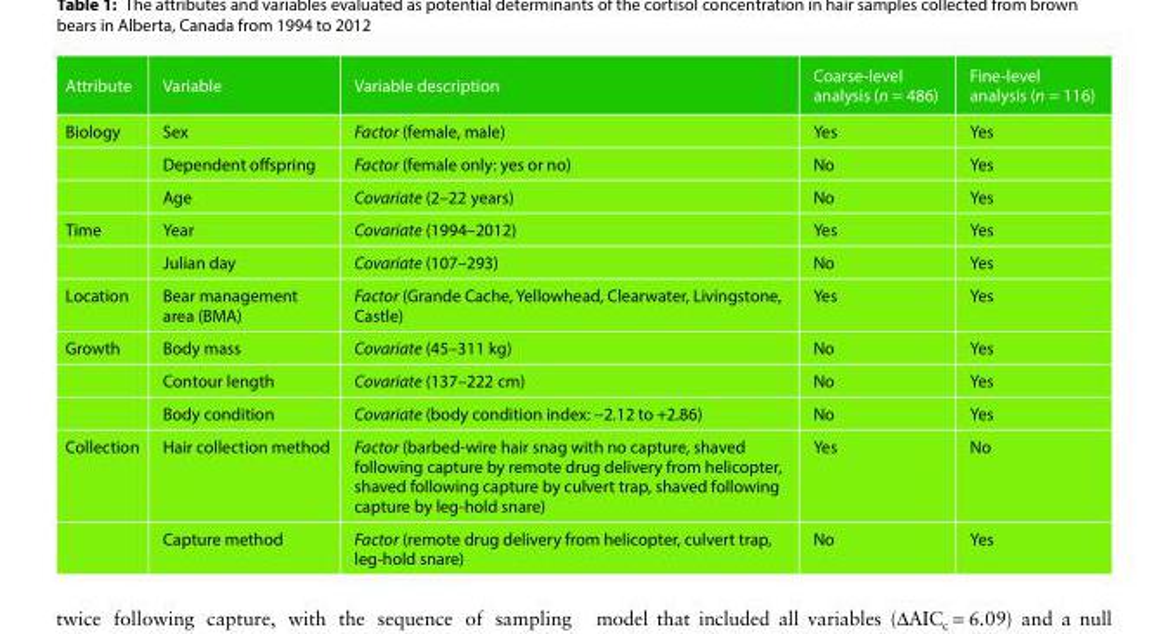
<table><thead><tr><td>Attribute</td><td>Variable</td><td>Variable description</td><td>Coarse-level analysis (n = 486)</td><td>Fine-level analysis (n = 116)</td></tr></thead><tbody><tr><td rowspan="3">Biology</td><td>Sex</td><td>Factor (female, male)</td><td>Yes</td><td>Yes</td></tr><tr><td>Dependent offspring</td><td>Factor (female only: yes or no)</td><td>No</td><td>Yes</td></tr><tr><td>Age</td><td>Covariate (2–22 years)</td><td>No</td><td>Yes</td></tr><tr><td rowspan="2">Time</td><td>Year</td><td>Covariate (1994–2012)</td><td>Yes</td><td>Yes</td></tr><tr><td>Julian day</td><td>Covariate (107–293)</td><td>No</td><td>Yes</td></tr><tr><td>Location</td><td>Bear management area (BMA)</td><td>Factor (Grande Cache, Yellowhead, Clearwater, Livingstone, Castle)</td><td>Yes</td><td>Yes</td></tr><tr><td rowspan="3">Growth</td><td>Body mass</td><td>Covariate (45–311 kg)</td><td>No</td><td>Yes</td></tr><tr><td>Contour length</td><td>Covariate (137–222 cm)</td><td>No</td><td>Yes</td></tr><tr><td>Body condition</td><td>Covariate (body condition index: −2.12 to +2.86)</td><td>No</td><td>Yes</td></tr><tr><td rowspan="2">Collection</td><td>Hair collection method</td><td>Factor (barbed-wire hair snag with no capture, shaved following capture by remote drug delivery from helicopter, shaved following capture by culvert trap, shaved following capture by leg-hold snare)</td><td>Yes</td><td>No</td></tr><tr><td>Capture method</td><td>Factor (remote drug delivery from helicopter, culvert trap, leg-hold snare)</td><td>No</td><td>Yes</td></tr></tbody></table>